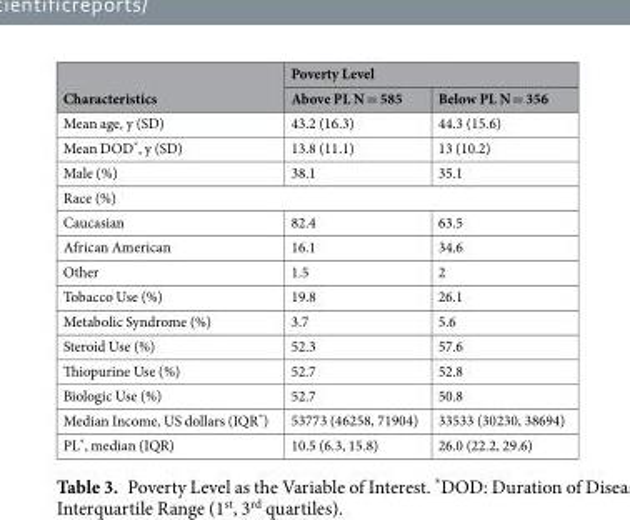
<table><thead><tr><td rowspan="2">Characteristics</td><td colspan="2">Poverty Level</td></tr><tr><td>Above PL N = 585</td><td>Below PL N = 356</td></tr></thead><tbody><tr><td>Mean age, y (SD)</td><td>43.2 (16.3)</td><td>44.3 (15.6)</td></tr><tr><td>Mean DOD*, y (SD)</td><td>13.8 (11.1)</td><td>13 (10.2)</td></tr><tr><td>Male (%)</td><td>38.1</td><td>35.1</td></tr><tr><td colspan="3">Race (%)</td></tr><tr><td>Caucasian</td><td>82.4</td><td>63.5</td></tr><tr><td>African American</td><td>16.1</td><td>34.6</td></tr><tr><td>Other</td><td>1.5</td><td>2</td></tr><tr><td>Tobacco Use (%)</td><td>19.8</td><td>26.1</td></tr><tr><td>Metabolic Syndrome (%)</td><td>3.7</td><td>5.6</td></tr><tr><td>Steroid Use (%)</td><td>52.3</td><td>57.6</td></tr><tr><td>Thiopurine Use (%)</td><td>52.7</td><td>52.8</td></tr><tr><td>Biologic Use (%)</td><td>52.7</td><td>50.8</td></tr><tr><td>Median Income, US dollars (IQR*)</td><td>53773 (46258, 71904)</td><td>33533 (30230, 38694)</td></tr><tr><td>PL*, median (IQR)</td><td>10.5 (6.3, 15.8)</td><td>26.0 (22.2, 29.6)</td></tr></tbody></table>